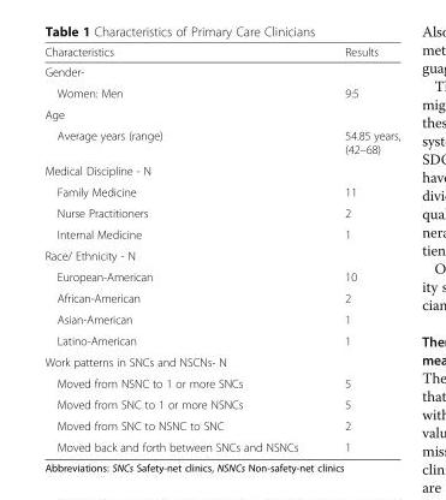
<table><thead><tr><td>Characteristics</td><td>Results</td></tr></thead><tbody><tr><td colspan="2">Gender-</td></tr><tr><td>Women: Men</td><td>9:5</td></tr><tr><td colspan="2">Age</td></tr><tr><td>Average years (range)</td><td>54.85 years, (42–68)</td></tr><tr><td colspan="2">Medical Discipline - N</td></tr><tr><td>Family Medicine</td><td>11</td></tr><tr><td>Nurse Practitioners</td><td>2</td></tr><tr><td>Internal Medicine</td><td>1</td></tr><tr><td colspan="2">Race/ Ethnicity - N</td></tr><tr><td>European-American</td><td>10</td></tr><tr><td>African-American</td><td>2</td></tr><tr><td>Asian-American</td><td>1</td></tr><tr><td>Latino-American</td><td>1</td></tr><tr><td colspan="2">Work patterns in SNCs and NSCNs- N</td></tr><tr><td>Moved from NSNC to 1 or more SNCs</td><td>5</td></tr><tr><td>Moved from SNC to 1 or more NSNCs</td><td>5</td></tr><tr><td>Moved from SNC to NSNC to SNC</td><td>2</td></tr><tr><td>Moved back and forth between SNCs and NSNCs</td><td>1</td></tr></tbody></table>